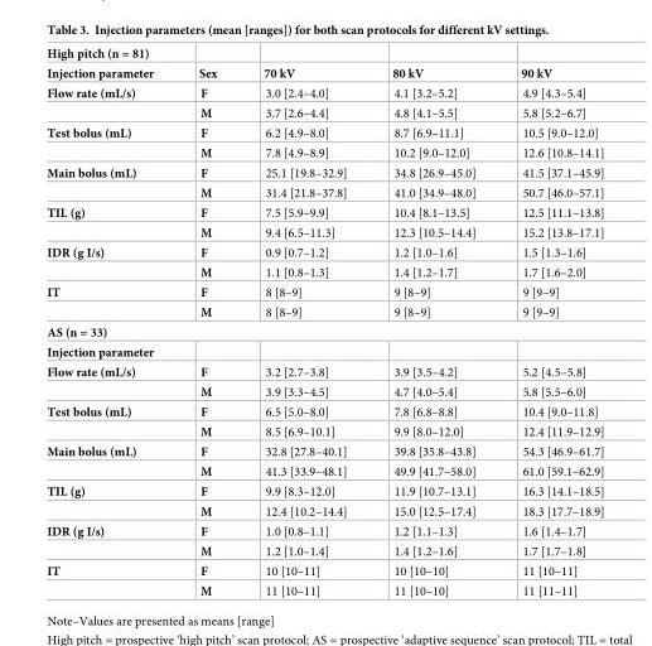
<table><thead><tr><td rowspan="2">High pitch (n = 81) Injection parameter</td><td rowspan="2">Sex</td><td rowspan="2">70 kV</td><td rowspan="2">80 kV</td><td rowspan="2">90 kV</td></tr><tr></tr></thead><tbody><tr><td rowspan="2">Flow rate (mL/s)</td><td>F</td><td>3.0 [2.4–4.0]</td><td>4.1 [3.2–5.2]</td><td>4.9 [4.3–5.4]</td></tr><tr><td>M</td><td>3.7 [2.6–4.4]</td><td>4.8 [4.1–5.5]</td><td>5.8 [5.2–6.7]</td></tr><tr><td rowspan="2">Test bolus (mL)</td><td>F</td><td>6.2 [4.9–8.0]</td><td>8.7 [6.9–11.1]</td><td>10.5 [9.0–12.0]</td></tr><tr><td>M</td><td>7.8 [4.9–8.9]</td><td>10.2 [9.0–12.0]</td><td>12.6 [10.8–14.1]</td></tr><tr><td rowspan="2">Main bolus (mL)</td><td>F</td><td>25.1 [19.8–32.9]</td><td>34.8 [26.9–45.0]</td><td>41.5 [37.1–45.9]</td></tr><tr><td>M</td><td>31.4 [21.8–37.8]</td><td>41.0 [34.9–48.0]</td><td>50.7 [46.0–57.1]</td></tr><tr><td rowspan="2">TIL (g)</td><td>F</td><td>7.5 [5.9–9.9]</td><td>10.4 [8.1–13.5]</td><td>12.5 [11.1–13.8]</td></tr><tr><td>M</td><td>9.4 [6.5–11.3]</td><td>12.3 [10.5–14.4]</td><td>15.2 [13.8–17.1]</td></tr><tr><td rowspan="2">IDR (g I/s)</td><td>F</td><td>0.9 [0.7–1.2]</td><td>1.2 [1.0–1.6]</td><td>1.5 [1.3–1.6]</td></tr><tr><td>M</td><td>1.1 [0.8–1.3]</td><td>1.4 [1.2–1.7]</td><td>1.7 [1.6–2.0]</td></tr><tr><td rowspan="2">IT</td><td>F</td><td>8 [8–9]</td><td>9 [8–9]</td><td>9 [9–9]</td></tr><tr><td>M</td><td>8 [8–9]</td><td>9 [8–9]</td><td>9 [9–9]</td></tr><tr><td colspan="5">AS (n = 33)</td></tr><tr><td colspan="5">Injection parameter</td></tr><tr><td rowspan="2">Flow rate (mL/s)</td><td>F</td><td>3.2 [2.7–3.8]</td><td>3.9 [3.5–4.2]</td><td>5.2 [4.5–5.8]</td></tr><tr><td>M</td><td>3.9 [3.3–4.5]</td><td>4.7 [4.0–5.4]</td><td>5.8 [5.5–6.0]</td></tr><tr><td rowspan="2">Test bolus (mL)</td><td>F</td><td>6.5 [5.0–8.0]</td><td>7.8 [6.8–8.8]</td><td>10.4 [9.0–11.8]</td></tr><tr><td>M</td><td>8.5 [6.9–10.1]</td><td>9.9 [8.0–12.0]</td><td>12.4 [11.9–12.9]</td></tr><tr><td rowspan="2">Main bolus (mL)</td><td>F</td><td>32.8 [27.8–40.1]</td><td>39.8 [35.8–43.8]</td><td>54.3 [46.9–61.7]</td></tr><tr><td>M</td><td>41.3 [33.9–48.1]</td><td>49.9 [41.7–58.0]</td><td>61.0 [59.1–62.9]</td></tr><tr><td rowspan="2">TIL (g)</td><td>F</td><td>9.9 [8.3–12.0]</td><td>11.9 [10.7–13.1]</td><td>16.3 [14.1–18.5]</td></tr><tr><td>M</td><td>12.4 [10.2–14.4]</td><td>15.0 [12.5–17.4]</td><td>18.3 [17.7–18.9]</td></tr><tr><td rowspan="2">IDR (g I/s)</td><td>F</td><td>1.0 [0.8–1.1]</td><td>1.2 [1.1–1.3]</td><td>1.6 [1.4–1.7]</td></tr><tr><td>M</td><td>1.2 [1.0–1.4]</td><td>1.4 [1.2–1.6]</td><td>1.7 [1.7–1.8]</td></tr><tr><td rowspan="2">IT</td><td>F</td><td>10 [10–11]</td><td>10 [10–10]</td><td>11 [10–11]</td></tr><tr><td>M</td><td>11 [10–11]</td><td>11 [10–10]</td><td>11 [11–11]</td></tr></tbody></table>